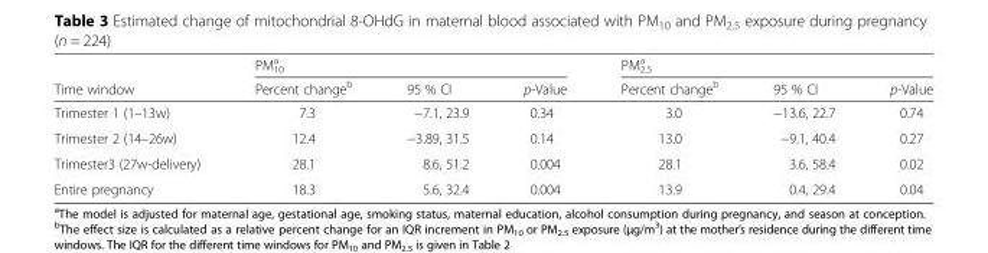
<table><thead><tr><td rowspan="2">Time window</td><td colspan="3">PM<sub>10</sub> <sup>a</sup></td><td colspan="3">PM<sub>2.5</sub> <sup>a</sup></td></tr><tr><td>Percent change<sup>b</sup></td><td>95 % CI</td><td>p-Value</td><td>Percent change<sup>b</sup></td><td>95 % CI</td><td>p-Value</td></tr></thead><tbody><tr><td>Trimester 1 (1–13w)</td><td>7.3</td><td>−7.1, 23.9</td><td>0.34</td><td>3.0</td><td>−13.6, 22.7</td><td>0.74</td></tr><tr><td>Trimester 2 (14–26w)</td><td>12.4</td><td>−3.89, 31.5</td><td>0.14</td><td>13.0</td><td>−9.1, 40.4</td><td>0.27</td></tr><tr><td>Trimester3 (27w-delivery)</td><td>28.1</td><td>8.6, 51.2</td><td>0.004</td><td>28.1</td><td>3.6, 58.4</td><td>0.02</td></tr><tr><td>Entire pregnancy</td><td>18.3</td><td>5.6, 32.4</td><td>0.004</td><td>13.9</td><td>0.4, 29.4</td><td>0.04</td></tr></tbody></table>